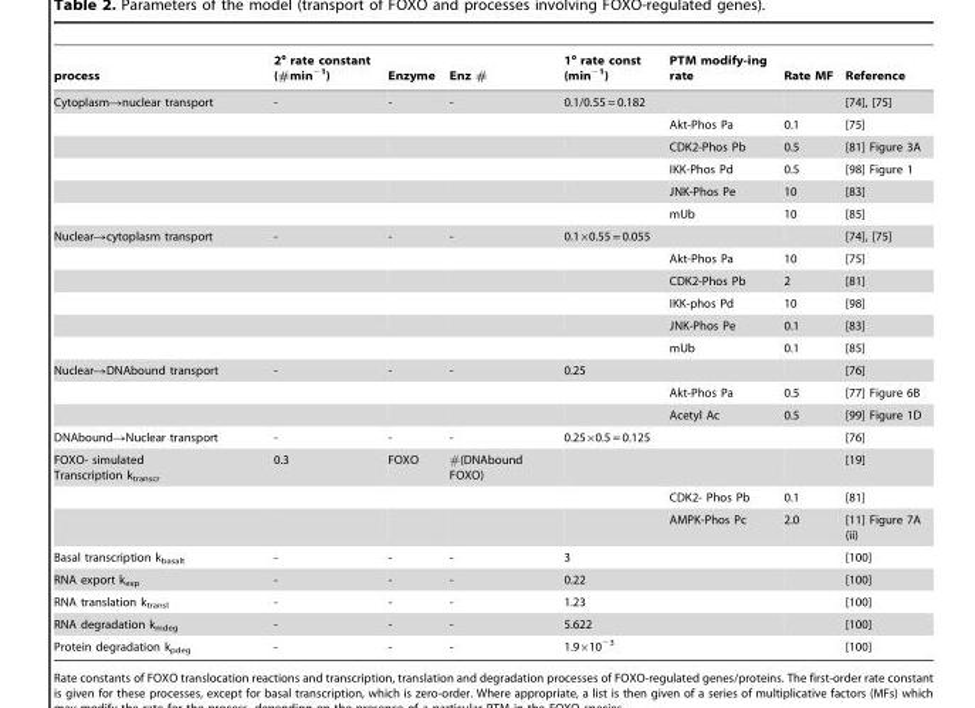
<table><thead><tr><td>process</td><td>2° rate constant (#min<sup>−1</sup>)</td><td>Enzyme</td><td>Enz #</td><td>1° rate const (min<sup>−1</sup>)</td><td>PTM modify-ing rate</td><td>Rate MF</td><td>Reference</td></tr></thead><tbody><tr><td rowspan="6">Cytoplasm→nuclear transport</td><td>-</td><td>-</td><td>-</td><td>0.1/0.55 = 0.182</td><td></td><td></td><td>[74], [75]</td></tr><tr><td></td><td></td><td></td><td></td><td>Akt-Phos Pa</td><td>0.1</td><td>[75]</td></tr><tr><td></td><td></td><td></td><td></td><td>CDK2-Phos Pb</td><td>0.5</td><td>[81] Figure 3A</td></tr><tr><td></td><td></td><td></td><td></td><td>IKK-Phos Pd</td><td>0.5</td><td>[98] Figure 1</td></tr><tr><td></td><td></td><td></td><td></td><td>JNK-Phos Pe</td><td>10</td><td>[83]</td></tr><tr><td></td><td></td><td></td><td></td><td>mUb</td><td>10</td><td>[85]</td></tr><tr><td rowspan="6">Nuclear→cytoplasm transport</td><td>-</td><td>-</td><td>-</td><td>0.1×0.55 = 0.055</td><td></td><td></td><td>[74], [75]</td></tr><tr><td></td><td></td><td></td><td></td><td>Akt-Phos Pa</td><td>10</td><td>[75]</td></tr><tr><td></td><td></td><td></td><td></td><td>CDK2-Phos Pb</td><td>2</td><td>[81]</td></tr><tr><td></td><td></td><td></td><td></td><td>IKK-phos Pd</td><td>10</td><td>[98]</td></tr><tr><td></td><td></td><td></td><td></td><td>JNK-Phos Pe</td><td>0.1</td><td>[83]</td></tr><tr><td></td><td></td><td></td><td></td><td>mUb</td><td>0.1</td><td>[85]</td></tr><tr><td rowspan="3">Nuclear→DNAbound transport</td><td>-</td><td>-</td><td>-</td><td>0.25</td><td></td><td></td><td>[76]</td></tr><tr><td></td><td></td><td></td><td></td><td>Akt-Phos Pa</td><td>0.5</td><td>[77] Figure 6B</td></tr><tr><td></td><td></td><td></td><td></td><td>Acetyl Ac</td><td>0.5</td><td>[99] Figure 1D</td></tr><tr><td>DNAbound→Nuclear transport</td><td>-</td><td>-</td><td>-</td><td>0.25×0.5 = 0.125</td><td></td><td></td><td>[76]</td></tr><tr><td rowspan="3">FOXO- simulated Transcription k<sub>transcr</sub></td><td>0.3</td><td>FOXO</td><td>#(DNAbound FOXO)</td><td></td><td></td><td></td><td>[19]</td></tr><tr><td></td><td></td><td></td><td></td><td>CDK2- Phos Pb</td><td>0.1</td><td>[81]</td></tr><tr><td></td><td></td><td></td><td></td><td>AMPK-Phos Pc</td><td>2.0</td><td>[11] Figure 7A (ii)</td></tr><tr><td>Basal transcription k<sub>basalt</sub></td><td>-</td><td>-</td><td>-</td><td>3</td><td></td><td></td><td>[100]</td></tr><tr><td>RNA export k<sub>exp</sub></td><td>-</td><td>-</td><td>-</td><td>0.22</td><td></td><td></td><td>[100]</td></tr><tr><td>RNA translation k<sub>transl</sub></td><td>-</td><td>-</td><td>-</td><td>1.23</td><td></td><td></td><td>[100]</td></tr><tr><td>RNA degradation k<sub>mdeg</sub></td><td>-</td><td>-</td><td>-</td><td>5.622</td><td></td><td></td><td>[100]</td></tr><tr><td>Protein degradation k<sub>pdeg</sub></td><td>-</td><td>-</td><td>-</td><td>1.9×10<sup>−3</sup></td><td></td><td></td><td>[100]</td></tr></tbody></table>